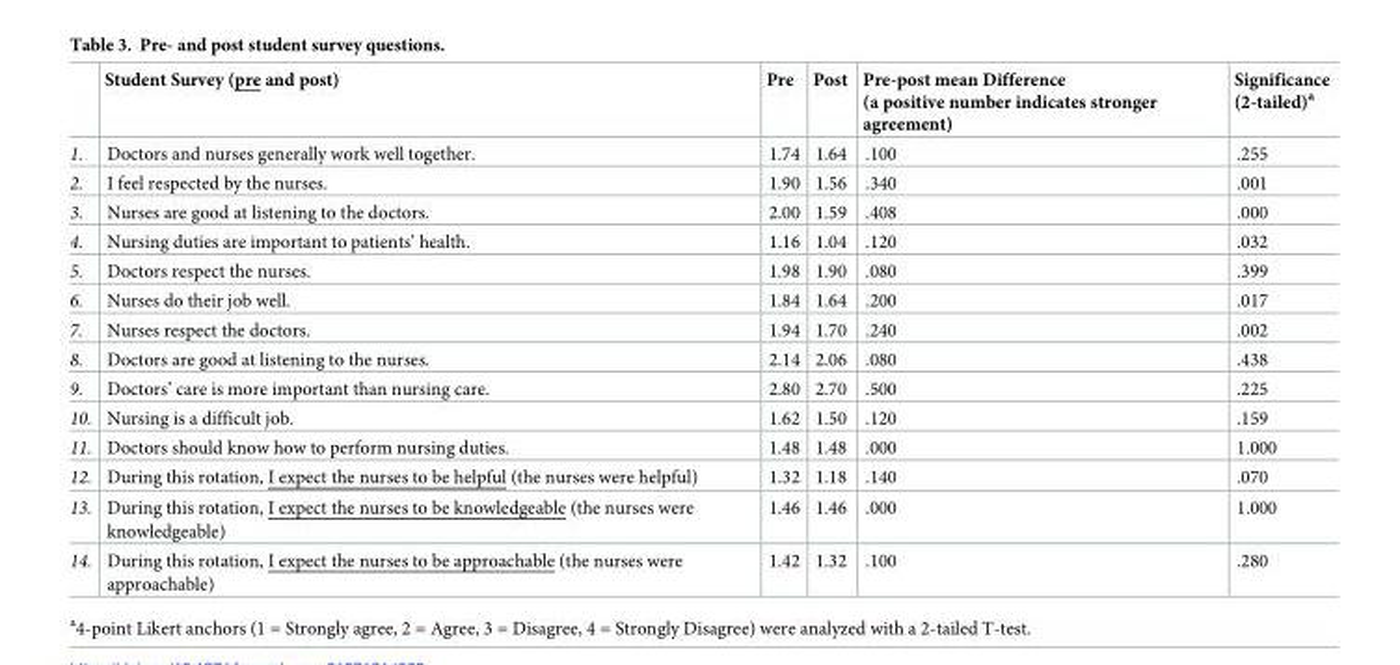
<table><thead><tr><td></td><td>Student Survey (pre and post)</td><td>Pre</td><td>Post</td><td>Pre-post mean Difference (a positive number indicates stronger agreement)</td><td>Significance (2-tailed)<sup>a</sup></td></tr></thead><tbody><tr><td>1.</td><td>Doctors and nurses generally work well together.</td><td>1.74</td><td>1.64</td><td>.100</td><td>.255</td></tr><tr><td>2.</td><td>I feel respected by the nurses.</td><td>1.90</td><td>1.56</td><td>.340</td><td>.001</td></tr><tr><td>3.</td><td>Nurses are good at listening to the doctors.</td><td>2.00</td><td>1.59</td><td>.408</td><td>.000</td></tr><tr><td>4.</td><td>Nursing duties are important to patients’ health.</td><td>1.16</td><td>1.04</td><td>.120</td><td>.032</td></tr><tr><td>5.</td><td>Doctors respect the nurses.</td><td>1.98</td><td>1.90</td><td>.080</td><td>.399</td></tr><tr><td>6.</td><td>Nurses do their job well.</td><td>1.84</td><td>1.64</td><td>.200</td><td>.017</td></tr><tr><td>7.</td><td>Nurses respect the doctors.</td><td>1.94</td><td>1.70</td><td>.240</td><td>.002</td></tr><tr><td>8.</td><td>Doctors are good at listening to the nurses.</td><td>2.14</td><td>2.06</td><td>.080</td><td>.438</td></tr><tr><td>9.</td><td>Doctors’ care is more important than nursing care.</td><td>2.80</td><td>2.70</td><td>.500</td><td>.225</td></tr><tr><td>10.</td><td>Nursing is a difficult job.</td><td>1.62</td><td>1.50</td><td>.120</td><td>.159</td></tr><tr><td>11.</td><td>Doctors should know how to perform nursing duties.</td><td>1.48</td><td>1.48</td><td>.000</td><td>1.000</td></tr><tr><td>12.</td><td>During this rotation, I expect the nurses to be helpful (the nurses were helpful)</td><td>1.32</td><td>1.18</td><td>.140</td><td>.070</td></tr><tr><td>13.</td><td>During this rotation, I expect the nurses to be knowledgeable (the nurses were knowledgeable)</td><td>1.46</td><td>1.46</td><td>.000</td><td>1.000</td></tr><tr><td>14.</td><td>During this rotation, I expect the nurses to be approachable (the nurses were approachable)</td><td>1.42</td><td>1.32</td><td>.100</td><td>.280</td></tr></tbody></table>